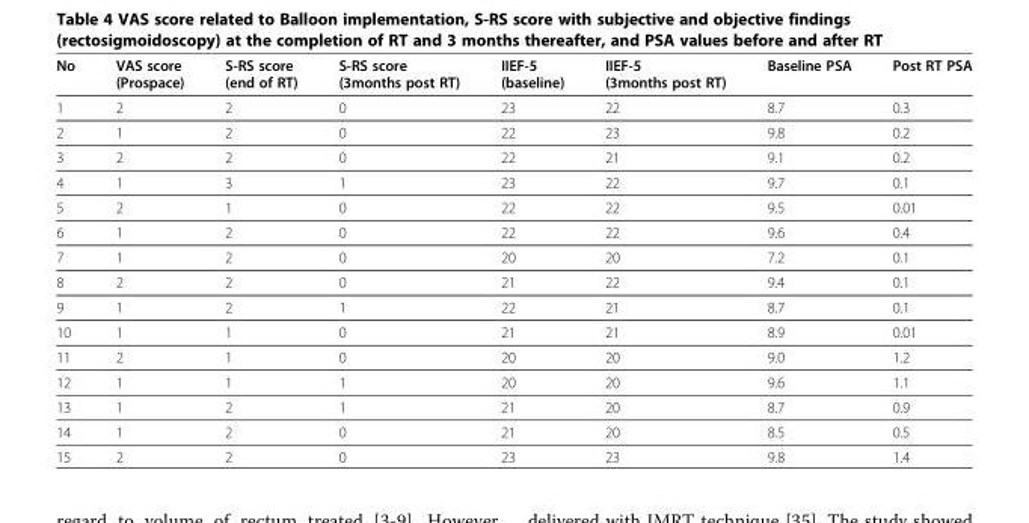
<table><thead><tr><td>No</td><td>VAS score (Prospace)</td><td>S-RS score (end of RT)</td><td>S-RS score (3months post RT)</td><td>IIEF-5 (baseline)</td><td>IIEF-5 (3months post RT)</td><td>Baseline PSA</td><td>Post RT PSA</td></tr></thead><tbody><tr><td>1</td><td>2</td><td>2</td><td>0</td><td>23</td><td>22</td><td>8.7</td><td>0.3</td></tr><tr><td>2</td><td>1</td><td>2</td><td>0</td><td>22</td><td>23</td><td>9.8</td><td>0.2</td></tr><tr><td>3</td><td>2</td><td>2</td><td>0</td><td>22</td><td>21</td><td>9.1</td><td>0.2</td></tr><tr><td>4</td><td>1</td><td>3</td><td>1</td><td>23</td><td>22</td><td>9.7</td><td>0.1</td></tr><tr><td>5</td><td>2</td><td>1</td><td>0</td><td>22</td><td>22</td><td>9.5</td><td>0.01</td></tr><tr><td>6</td><td>1</td><td>2</td><td>0</td><td>22</td><td>22</td><td>9.6</td><td>0.4</td></tr><tr><td>7</td><td>1</td><td>2</td><td>0</td><td>20</td><td>20</td><td>7.2</td><td>0.1</td></tr><tr><td>8</td><td>2</td><td>2</td><td>0</td><td>21</td><td>22</td><td>9.4</td><td>0.1</td></tr><tr><td>9</td><td>1</td><td>2</td><td>1</td><td>22</td><td>21</td><td>8.7</td><td>0.1</td></tr><tr><td>10</td><td>1</td><td>1</td><td>0</td><td>21</td><td>21</td><td>8.9</td><td>0.01</td></tr><tr><td>11</td><td>2</td><td>1</td><td>0</td><td>20</td><td>20</td><td>9.0</td><td>1.2</td></tr><tr><td>12</td><td>1</td><td>1</td><td>1</td><td>20</td><td>20</td><td>9.6</td><td>1.1</td></tr><tr><td>13</td><td>1</td><td>2</td><td>1</td><td>21</td><td>20</td><td>8.7</td><td>0.9</td></tr><tr><td>14</td><td>1</td><td>2</td><td>0</td><td>21</td><td>20</td><td>8.5</td><td>0.5</td></tr><tr><td>15</td><td>2</td><td>2</td><td>0</td><td>23</td><td>23</td><td>9.8</td><td>1.4</td></tr></tbody></table>